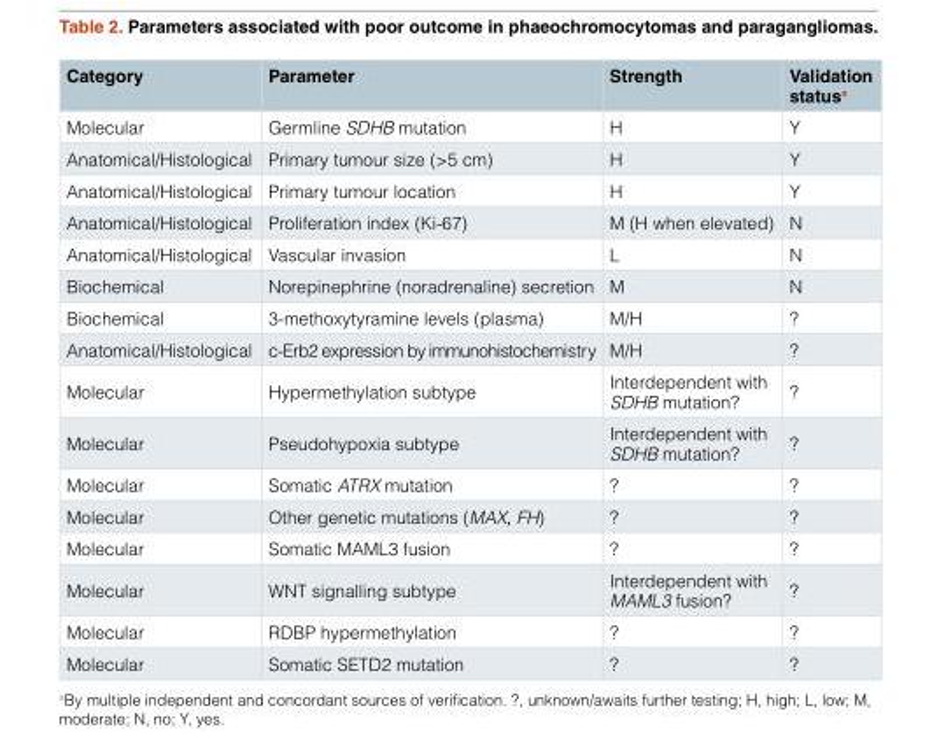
<table><thead><tr><td>Category</td><td>Parameter</td><td>Strength</td><td>Validation status<sup>a</sup></td></tr></thead><tbody><tr><td>Molecular</td><td>Germline SDHB mutation</td><td>H</td><td>Y</td></tr><tr><td>Anatomical/Histological</td><td>Primary tumour size (&gt;5 cm)</td><td>H</td><td>Y</td></tr><tr><td>Anatomical/Histological</td><td>Primary tumour location</td><td>H</td><td>Y</td></tr><tr><td>Anatomical/Histological</td><td>Proliferation index (Ki-67)</td><td>M (H when elevated)</td><td>N</td></tr><tr><td>Anatomical/Histological</td><td>Vascular invasion</td><td>L</td><td>N</td></tr><tr><td>Biochemical</td><td>Norepinephrine (noradrenaline) secretion</td><td>M</td><td>N</td></tr><tr><td>Biochemical</td><td>3-methoxytyramine levels (plasma)</td><td>M/H</td><td>?</td></tr><tr><td>Anatomical/Histological</td><td>c-Erb2 expression by immunohistochemistry</td><td>M/H</td><td>?</td></tr><tr><td>Molecular</td><td>Hypermethylation subtype</td><td>Interdependent with SDHB mutation?</td><td>?</td></tr><tr><td>Molecular</td><td>Pseudohypoxia subtype</td><td>Interdependent with SDHB mutation?</td><td>?</td></tr><tr><td>Molecular</td><td>Somatic ATRX mutation</td><td>?</td><td>?</td></tr><tr><td>Molecular</td><td>Other genetic mutations (MAX, FH)</td><td>?</td><td>?</td></tr><tr><td>Molecular</td><td>Somatic MAML3 fusion</td><td>?</td><td>?</td></tr><tr><td>Molecular</td><td>WNT signalling subtype</td><td>Interdependent with MAML3 fusion?</td><td>?</td></tr><tr><td>Molecular</td><td>RDBP hypermethylation</td><td>?</td><td>?</td></tr><tr><td>Molecular</td><td>Somatic SETD2 mutation</td><td>?</td><td>?</td></tr></tbody></table>